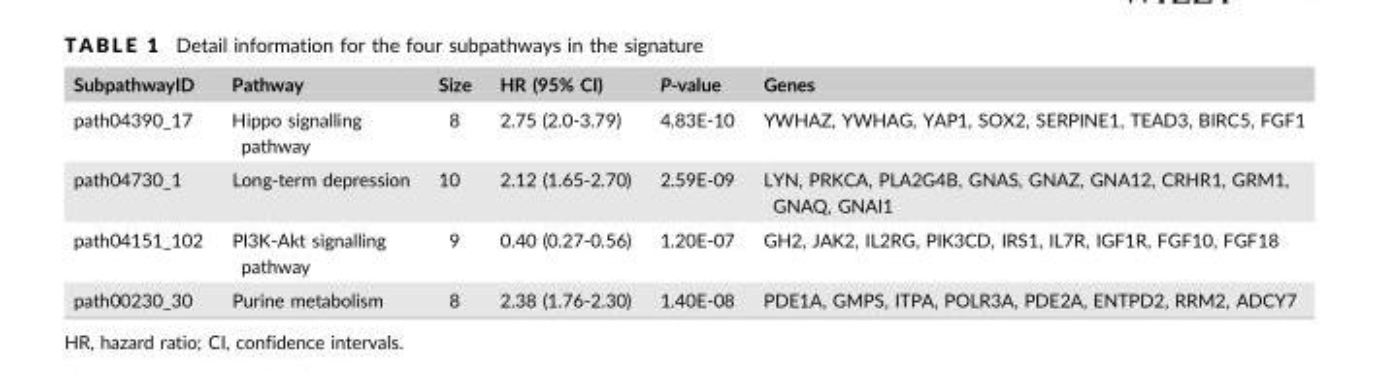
<table><thead><tr><td>SubpathwayID</td><td>Pathway</td><td>Size</td><td>HR (95% CI)</td><td>P-value</td><td>Genes</td></tr></thead><tbody><tr><td>path04390_17</td><td>Hippo signalling pathway</td><td>8</td><td>2.75 (2.0-3.79)</td><td>4.83E-10</td><td>YWHAZ, YWHAG, YAP1, SOX2, SERPINE1, TEAD3, BIRC5, FGF1</td></tr><tr><td>path04730_1</td><td>Long-term depression</td><td>10</td><td>2.12 (1.65-2.70)</td><td>2.59E-09</td><td>LYN, PRKCA, PLA2G4B, GNAS, GNAZ, GNA12, CRHR1, GRM1, GNAQ, GNAI1</td></tr><tr><td>path04151_102</td><td>PI3K-Akt signalling pathway</td><td>9</td><td>0.40 (0.27-0.56)</td><td>1.20E-07</td><td>GH2, JAK2, IL2RG, PIK3CD, IRS1, IL7R, IGF1R, FGF10, FGF18</td></tr><tr><td>path00230_30</td><td>Purine metabolism</td><td>8</td><td>2.38 (1.76-2.30)</td><td>1.40E-08</td><td>PDE1A, GMPS, ITPA, POLR3A, PDE2A, ENTPD2, RRM2, ADCY7</td></tr></tbody></table>